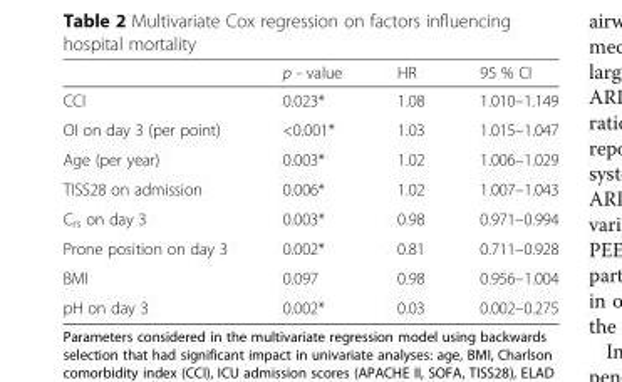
<table><thead><tr><td></td><td>p - value</td><td>HR</td><td>95 % CI</td></tr></thead><tbody><tr><td>CCI</td><td>0.023*</td><td>1.08</td><td>1.010–1.149</td></tr><tr><td>OI on day 3 (per point)</td><td>&lt;0.001*</td><td>1.03</td><td>1.015–1.047</td></tr><tr><td>Age (per year)</td><td>0.003*</td><td>1.02</td><td>1.006–1.029</td></tr><tr><td>TISS28 on admission</td><td>0.006*</td><td>1.02</td><td>1.007–1.043</td></tr><tr><td>C<sub>rs</sub> on day 3</td><td>0.003*</td><td>0.98</td><td>0.971–0.994</td></tr><tr><td>Prone position on day 3</td><td>0.002*</td><td>0.81</td><td>0.711–0.928</td></tr><tr><td>BMI</td><td>0.097</td><td>0.98</td><td>0.956–1.004</td></tr><tr><td>pH on day 3</td><td>0.002*</td><td>0.03</td><td>0.002–0.275</td></tr></tbody></table>